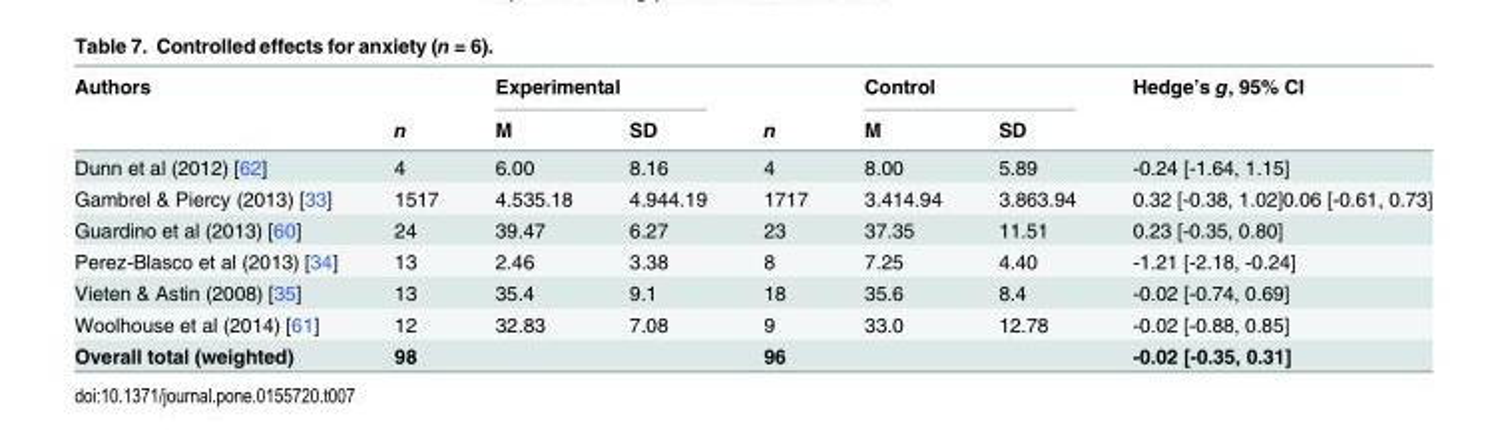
<table><thead><tr><td rowspan="2">Authors</td><td rowspan="2">n</td><td colspan="2">Experimental</td><td rowspan="2">n</td><td colspan="2">Control</td><td rowspan="2">Hedge’s g, 95% CI</td></tr><tr><td>M</td><td>SD</td><td>M</td><td>SD</td></tr></thead><tbody><tr><td>Dunn et al (2012) [62]</td><td>4</td><td>6.00</td><td>8.16</td><td>4</td><td>8.00</td><td>5.89</td><td>-0.24 [-1.64, 1.15]</td></tr><tr><td>Gambrel &amp; Piercy (2013) [33]</td><td>1517</td><td>4.535.18</td><td>4.944.19</td><td>1717</td><td>3.414.94</td><td>3.863.94</td><td>0.32 [-0.38, 1.02]0.06 [-0.61, 0.73]</td></tr><tr><td>Guardino et al (2013) [60]</td><td>24</td><td>39.47</td><td>6.27</td><td>23</td><td>37.35</td><td>11.51</td><td>0.23 [-0.35, 0.80]</td></tr><tr><td>Perez-Blasco et al (2013) [34]</td><td>13</td><td>2.46</td><td>3.38</td><td>8</td><td>7.25</td><td>4.40</td><td>-1.21 [-2.18, -0.24]</td></tr><tr><td>Vieten &amp; Astin (2008) [35]</td><td>13</td><td>35.4</td><td>9.1</td><td>18</td><td>35.6</td><td>8.4</td><td>-0.02 [-0.74, 0.69]</td></tr><tr><td>Woolhouse et al (2014) [61]</td><td>12</td><td>32.83</td><td>7.08</td><td>9</td><td>33.0</td><td>12.78</td><td>-0.02 [-0.88, 0.85]</td></tr><tr><td>Overall total (weighted)</td><td>98</td><td></td><td></td><td>96</td><td></td><td></td><td>-0.02 [-0.35, 0.31]</td></tr></tbody></table>